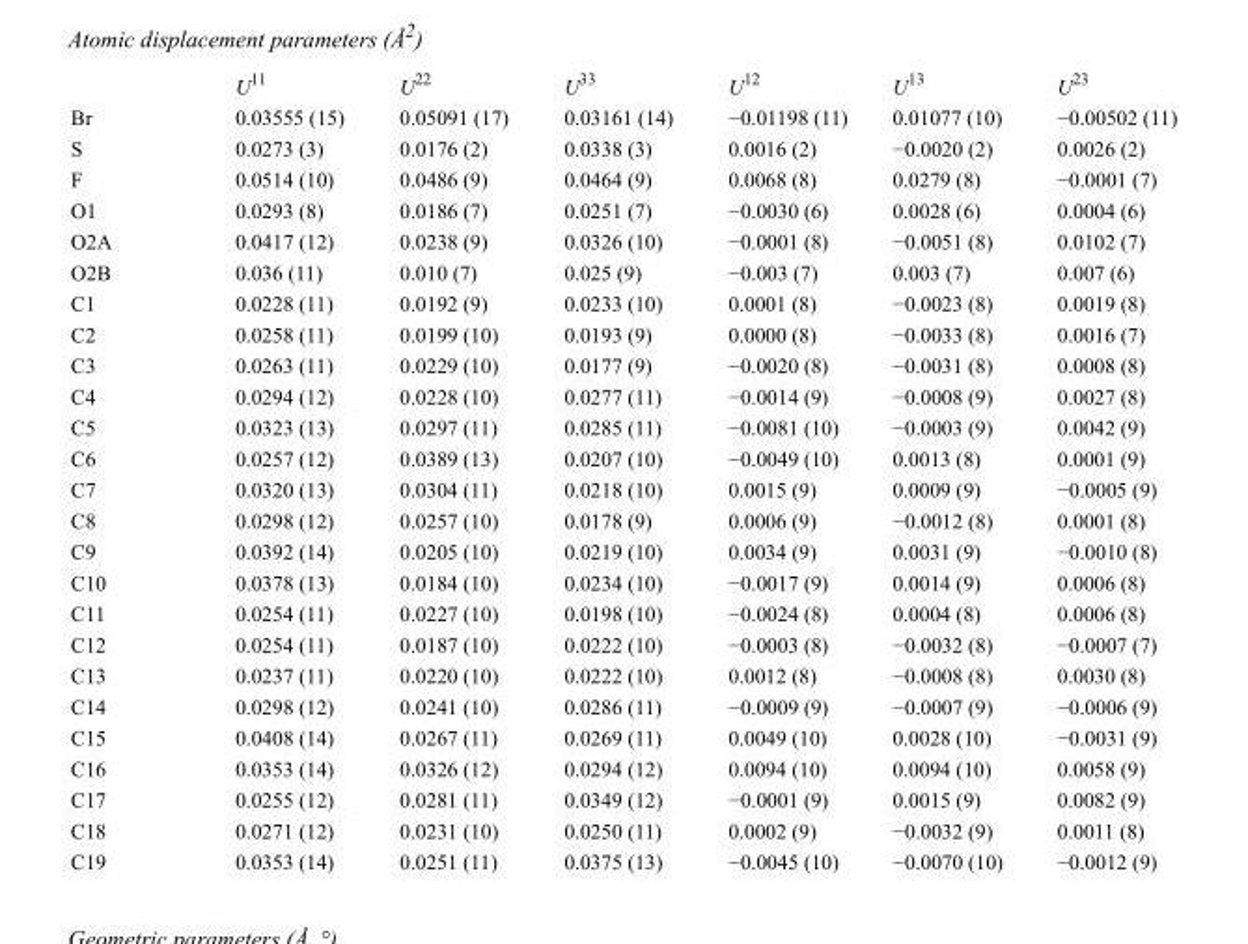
<table><thead><tr><td></td><td>U<sup>11</sup></td><td>U<sup>22</sup></td><td>U<sup>33</sup></td><td>U<sup>12</sup></td><td>U<sup>13</sup></td><td>U<sup>23</sup></td></tr></thead><tbody><tr><td>Br</td><td>0.03555 (15)</td><td>0.05091 (17)</td><td>0.03161 (14)</td><td>−0.01198 (11)</td><td>0.01077 (10)</td><td>−0.00502 (11)</td></tr><tr><td>S</td><td>0.0273 (3)</td><td>0.0176 (2)</td><td>0.0338 (3)</td><td>0.0016 (2)</td><td>−0.0020 (2)</td><td>0.0026 (2)</td></tr><tr><td>F</td><td>0.0514 (10)</td><td>0.0486 (9)</td><td>0.0464 (9)</td><td>0.0068 (8)</td><td>0.0279 (8)</td><td>−0.0001 (7)</td></tr><tr><td>O1</td><td>0.0293 (8)</td><td>0.0186 (7)</td><td>0.0251 (7)</td><td>−0.0030 (6)</td><td>0.0028 (6)</td><td>0.0004 (6)</td></tr><tr><td>O2A</td><td>0.0417 (12)</td><td>0.0238 (9)</td><td>0.0326 (10)</td><td>−0.0001 (8)</td><td>−0.0051 (8)</td><td>0.0102 (7)</td></tr><tr><td>O2B</td><td>0.036 (11)</td><td>0.010 (7)</td><td>0.025 (9)</td><td>−0.003 (7)</td><td>0.003 (7)</td><td>0.007 (6)</td></tr><tr><td>C1</td><td>0.0228 (11)</td><td>0.0192 (9)</td><td>0.0233 (10)</td><td>0.0001 (8)</td><td>−0.0023 (8)</td><td>0.0019 (8)</td></tr><tr><td>C2</td><td>0.0258 (11)</td><td>0.0199 (10)</td><td>0.0193 (9)</td><td>0.0000 (8)</td><td>−0.0033 (8)</td><td>0.0016 (7)</td></tr><tr><td>C3</td><td>0.0263 (11)</td><td>0.0229 (10)</td><td>0.0177 (9)</td><td>−0.0020 (8)</td><td>−0.0031 (8)</td><td>0.0008 (8)</td></tr><tr><td>C4</td><td>0.0294 (12)</td><td>0.0228 (10)</td><td>0.0277 (11)</td><td>−0.0014 (9)</td><td>−0.0008 (9)</td><td>0.0027 (8)</td></tr><tr><td>C5</td><td>0.0323 (13)</td><td>0.0297 (11)</td><td>0.0285 (11)</td><td>−0.0081 (10)</td><td>−0.0003 (9)</td><td>0.0042 (9)</td></tr><tr><td>C6</td><td>0.0257 (12)</td><td>0.0389 (13)</td><td>0.0207 (10)</td><td>−0.0049 (10)</td><td>0.0013 (8)</td><td>0.0001 (9)</td></tr><tr><td>C7</td><td>0.0320 (13)</td><td>0.0304 (11)</td><td>0.0218 (10)</td><td>0.0015 (9)</td><td>0.0009 (9)</td><td>−0.0005 (9)</td></tr><tr><td>C8</td><td>0.0298 (12)</td><td>0.0257 (10)</td><td>0.0178 (9)</td><td>0.0006 (9)</td><td>−0.0012 (8)</td><td>0.0001 (8)</td></tr><tr><td>C9</td><td>0.0392 (14)</td><td>0.0205 (10)</td><td>0.0219 (10)</td><td>0.0034 (9)</td><td>0.0031 (9)</td><td>−0.0010 (8)</td></tr><tr><td>C10</td><td>0.0378 (13)</td><td>0.0184 (10)</td><td>0.0234 (10)</td><td>−0.0017 (9)</td><td>0.0014 (9)</td><td>0.0006 (8)</td></tr><tr><td>C11</td><td>0.0254 (11)</td><td>0.0227 (10)</td><td>0.0198 (10)</td><td>−0.0024 (8)</td><td>0.0004 (8)</td><td>0.0006 (8)</td></tr><tr><td>C12</td><td>0.0254 (11)</td><td>0.0187 (10)</td><td>0.0222 (10)</td><td>−0.0003 (8)</td><td>−0.0032 (8)</td><td>−0.0007 (7)</td></tr><tr><td>C13</td><td>0.0237 (11)</td><td>0.0220 (10)</td><td>0.0222 (10)</td><td>0.0012 (8)</td><td>−0.0008 (8)</td><td>0.0030 (8)</td></tr><tr><td>C14</td><td>0.0298 (12)</td><td>0.0241 (10)</td><td>0.0286 (11)</td><td>−0.0009 (9)</td><td>−0.0007 (9)</td><td>−0.0006 (9)</td></tr><tr><td>C15</td><td>0.0408 (14)</td><td>0.0267 (11)</td><td>0.0269 (11)</td><td>0.0049 (10)</td><td>0.0028 (10)</td><td>−0.0031 (9)</td></tr><tr><td>C16</td><td>0.0353 (14)</td><td>0.0326 (12)</td><td>0.0294 (12)</td><td>0.0094 (10)</td><td>0.0094 (10)</td><td>0.0058 (9)</td></tr><tr><td>C17</td><td>0.0255 (12)</td><td>0.0281 (11)</td><td>0.0349 (12)</td><td>−0.0001 (9)</td><td>0.0015 (9)</td><td>0.0082 (9)</td></tr><tr><td>C18</td><td>0.0271 (12)</td><td>0.0231 (10)</td><td>0.0250 (11)</td><td>0.0002 (9)</td><td>−0.0032 (9)</td><td>0.0011 (8)</td></tr><tr><td>C19</td><td>0.0353 (14)</td><td>0.0251 (11)</td><td>0.0375 (13)</td><td>−0.0045 (10)</td><td>−0.0070 (10)</td><td>−0.0012 (9)</td></tr></tbody></table>